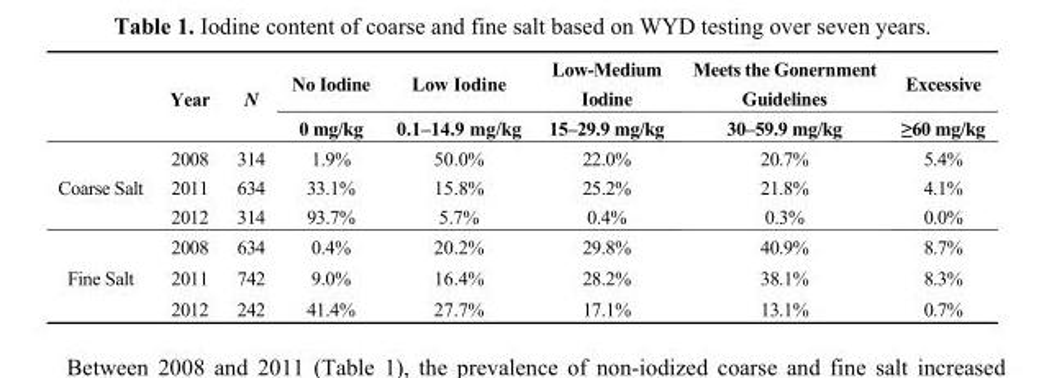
<table><thead><tr><td rowspan="2"></td><td rowspan="2">Year</td><td rowspan="2">N</td><td rowspan="2">No Iodine 0 mg/kg</td><td rowspan="2">Low Iodine 0.1–14.9 mg/kg</td><td rowspan="2">Low-Medium Iodine 15–29.9 mg/kg</td><td rowspan="2">Meets the Gonernment Guidelines 30–59.9 mg/kg</td><td rowspan="2">Excessive ≥60 mg/kg</td></tr><tr></tr></thead><tbody><tr><td rowspan="3">Coarse Salt</td><td>2008</td><td>314</td><td>1.9%</td><td>50.0%</td><td>22.0%</td><td>20.7%</td><td>5.4%</td></tr><tr><td>2011</td><td>634</td><td>33.1%</td><td>15.8%</td><td>25.2%</td><td>21.8%</td><td>4.1%</td></tr><tr><td>2012</td><td>314</td><td>93.7%</td><td>5.7%</td><td>0.4%</td><td>0.3%</td><td>0.0%</td></tr><tr><td rowspan="3">Fine Salt</td><td>2008</td><td>634</td><td>0.4%</td><td>20.2%</td><td>29.8%</td><td>40.9%</td><td>8.7%</td></tr><tr><td>2011</td><td>742</td><td>9.0%</td><td>16.4%</td><td>28.2%</td><td>38.1%</td><td>8.3%</td></tr><tr><td>2012</td><td>242</td><td>41.4%</td><td>27.7%</td><td>17.1%</td><td>13.1%</td><td>0.7%</td></tr></tbody></table>